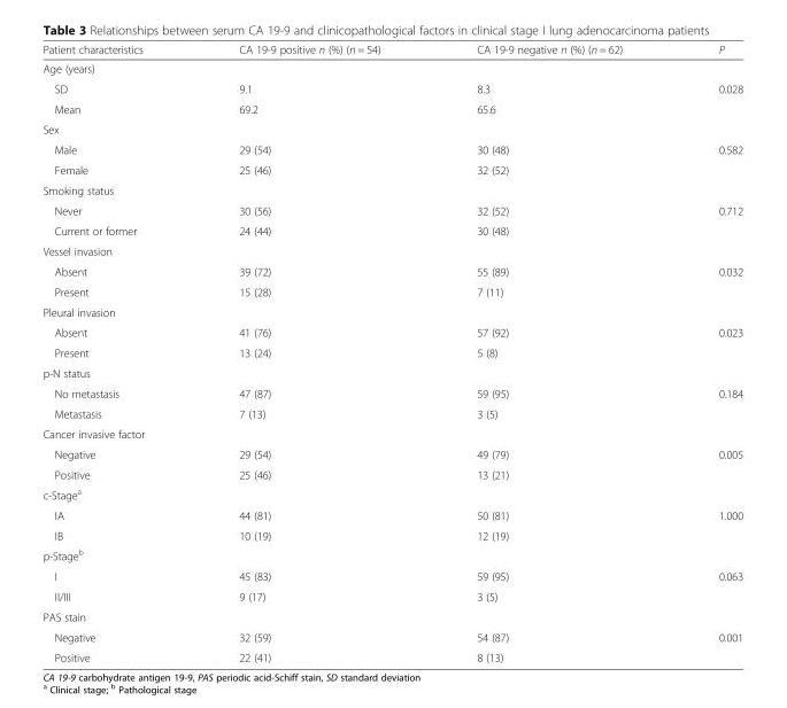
<table><thead><tr><td>Patient characteristics</td><td>CA 19-9 positive n (%) (n = 54)</td><td>CA 19-9 negative n (%) (n = 62)</td><td>P</td></tr></thead><tbody><tr><td colspan="4">Age (years)</td></tr><tr><td>SD</td><td>9.1</td><td>8.3</td><td rowspan="2">0.028</td></tr><tr><td>Mean</td><td>69.2</td><td>65.6</td></tr><tr><td colspan="4">Sex</td></tr><tr><td>Male</td><td>29 (54)</td><td>30 (48)</td><td rowspan="2">0.582</td></tr><tr><td>Female</td><td>25 (46)</td><td>32 (52)</td></tr><tr><td colspan="4">Smoking status</td></tr><tr><td>Never</td><td>30 (56)</td><td>32 (52)</td><td rowspan="2">0.712</td></tr><tr><td>Current or former</td><td>24 (44)</td><td>30 (48)</td></tr><tr><td colspan="4">Vessel invasion</td></tr><tr><td>Absent</td><td>39 (72)</td><td>55 (89)</td><td rowspan="2">0.032</td></tr><tr><td>Present</td><td>15 (28)</td><td>7 (11)</td></tr><tr><td colspan="4">Pleural invasion</td></tr><tr><td>Absent</td><td>41 (76)</td><td>57 (92)</td><td rowspan="2">0.023</td></tr><tr><td>Present</td><td>13 (24)</td><td>5 (8)</td></tr><tr><td colspan="4">p-N status</td></tr><tr><td>No metastasis</td><td>47 (87)</td><td>59 (95)</td><td rowspan="2">0.184</td></tr><tr><td>Metastasis</td><td>7 (13)</td><td>3 (5)</td></tr><tr><td colspan="4">Cancer invasive factor</td></tr><tr><td>Negative</td><td>29 (54)</td><td>49 (79)</td><td rowspan="2">0.005</td></tr><tr><td>Positive</td><td>25 (46)</td><td>13 (21)</td></tr><tr><td colspan="4">c-Stage<sup>a</sup></td></tr><tr><td>IA</td><td>44 (81)</td><td>50 (81)</td><td rowspan="2">1.000</td></tr><tr><td>IB</td><td>10 (19)</td><td>12 (19)</td></tr><tr><td colspan="4">p-Stage<sup>b</sup></td></tr><tr><td>I</td><td>45 (83)</td><td>59 (95)</td><td rowspan="2">0.063</td></tr><tr><td>II/III</td><td>9 (17)</td><td>3 (5)</td></tr><tr><td colspan="4">PAS stain</td></tr><tr><td>Negative</td><td>32 (59)</td><td>54 (87)</td><td rowspan="2">0.001</td></tr><tr><td>Positive</td><td>22 (41)</td><td>8 (13)</td></tr></tbody></table>